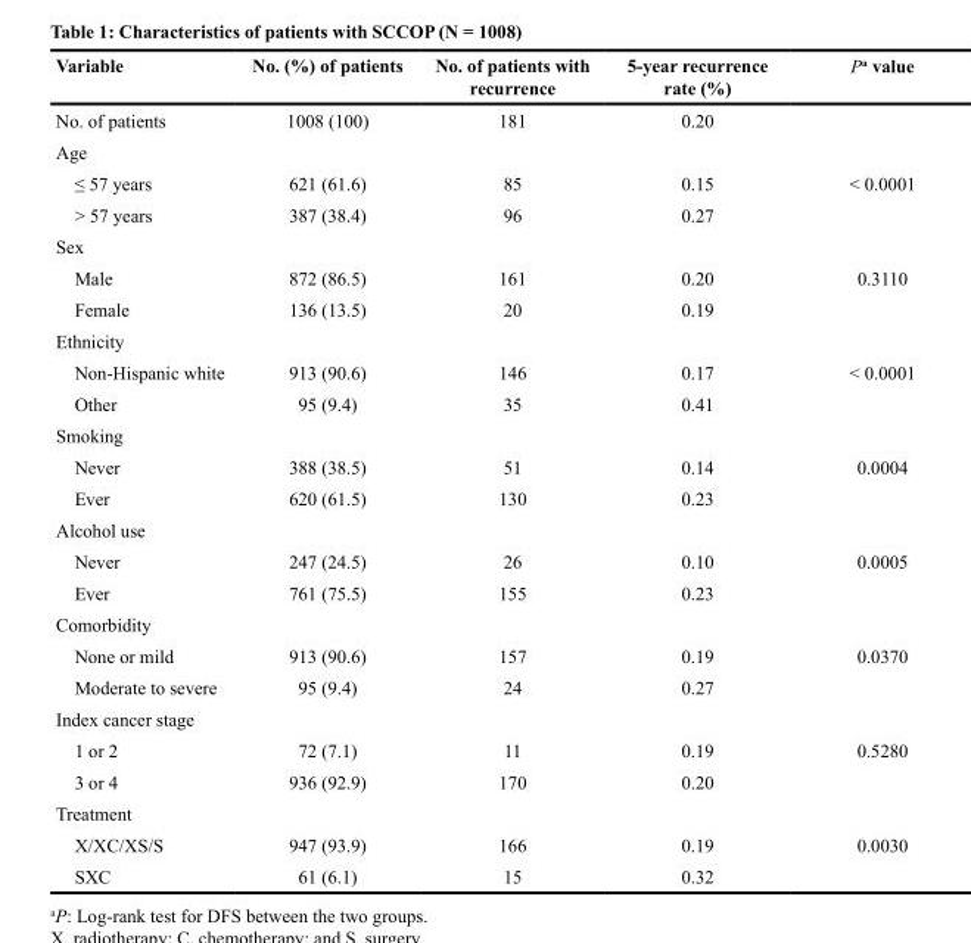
<table><thead><tr><td>Variable</td><td>No. (%) of patients</td><td>No. of patients with recurrence</td><td>5-year recurrence rate (%)</td><td>P<sup>a</sup> value</td></tr></thead><tbody><tr><td>No. of patients</td><td>1008 (100)</td><td>181</td><td>0.20</td><td></td></tr><tr><td colspan="5">Age</td></tr><tr><td>≤ 57 years</td><td>621 (61.6)</td><td>85</td><td>0.15</td><td>&lt; 0.0001</td></tr><tr><td>&gt; 57 years</td><td>387 (38.4)</td><td>96</td><td>0.27</td><td></td></tr><tr><td colspan="5">Sex</td></tr><tr><td>Male</td><td>872 (86.5)</td><td>161</td><td>0.20</td><td>0.3110</td></tr><tr><td>Female</td><td>136 (13.5)</td><td>20</td><td>0.19</td><td></td></tr><tr><td colspan="5">Ethnicity</td></tr><tr><td>Non-Hispanic white</td><td>913 (90.6)</td><td>146</td><td>0.17</td><td>&lt; 0.0001</td></tr><tr><td>Other</td><td>95 (9.4)</td><td>35</td><td>0.41</td><td></td></tr><tr><td colspan="5">Smoking</td></tr><tr><td>Never</td><td>388 (38.5)</td><td>51</td><td>0.14</td><td>0.0004</td></tr><tr><td>Ever</td><td>620 (61.5)</td><td>130</td><td>0.23</td><td></td></tr><tr><td colspan="5">Alcohol use</td></tr><tr><td>Never</td><td>247 (24.5)</td><td>26</td><td>0.10</td><td>0.0005</td></tr><tr><td>Ever</td><td>761 (75.5)</td><td>155</td><td>0.23</td><td></td></tr><tr><td colspan="5">Comorbidity</td></tr><tr><td>None or mild</td><td>913 (90.6)</td><td>157</td><td>0.19</td><td>0.0370</td></tr><tr><td>Moderate to severe</td><td>95 (9.4)</td><td>24</td><td>0.27</td><td></td></tr><tr><td colspan="5">Index cancer stage</td></tr><tr><td>1 or 2</td><td>72 (7.1)</td><td>11</td><td>0.19</td><td>0.5280</td></tr><tr><td>3 or 4</td><td>936 (92.9)</td><td>170</td><td>0.20</td><td></td></tr><tr><td colspan="5">Treatment</td></tr><tr><td>X/XC/XS/S</td><td>947 (93.9)</td><td>166</td><td>0.19</td><td>0.0030</td></tr><tr><td>SXC</td><td>61 (6.1)</td><td>15</td><td>0.32</td><td></td></tr></tbody></table>